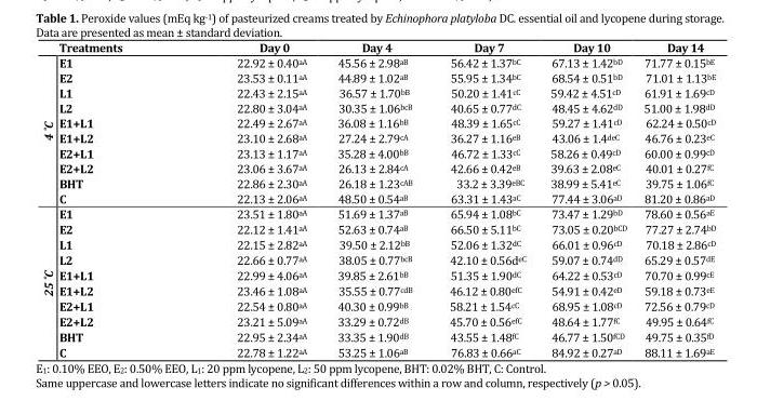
<table><thead><tr><td></td><td>Treatments</td><td>Day 0</td><td>Day 4</td><td>Day 7</td><td>Day 10</td><td>Day 14</td></tr></thead><tbody><tr><td rowspan="10">4 ˚C</td><td>E1</td><td>22.92 ± 0.40<sup>aA</sup></td><td>45.56 ± 2.98<sup>aB</sup></td><td>56.42 ± 1.37<sup>bC</sup></td><td>67.13 ± 1.42<sup>bD</sup></td><td>71.77 ± 0.15<sup>bE</sup></td></tr><tr><td>E2</td><td>23.53 ± 0.11<sup>aA</sup></td><td>44.89 ± 1.02<sup>aB</sup></td><td>55.95 ± 1.34<sup>bC</sup></td><td>68.54 ± 0.51<sup>bD</sup></td><td>71.01 ± 1.13<sup>bE</sup></td></tr><tr><td>L1</td><td>22.43 ± 2.15<sup>aA</sup></td><td>36.57 ± 1.70<sup>bB</sup></td><td>50.20 ± 1.41<sup>cC</sup></td><td>59.42 ± 4.51<sup>cD</sup></td><td>61.91 ± 1.69<sup>cD</sup></td></tr><tr><td>L2</td><td>22.80 ± 3.04<sup>aA</sup></td><td>30.35 ± 1.06<sup>bcB</sup></td><td>40.65 ± 0.77<sup>dC</sup></td><td>48.45 ± 4.62<sup>dD</sup></td><td>51.00 ± 1.98<sup>dD</sup></td></tr><tr><td>E1+L1</td><td>22.49 ± 2.67<sup>aA</sup></td><td>36.08 ± 1.16<sup>bB</sup></td><td>48.39 ± 1.65<sup>cC</sup></td><td>59.27 ± 1.41<sup>cD</sup></td><td>62.24 ± 0.50<sup>cD</sup></td></tr><tr><td>E1+L2</td><td>23.10 ± 2.68<sup>aA</sup></td><td>27.24 ± 2.79<sup>cA</sup></td><td>36.27 ± 1.16<sup>eB</sup></td><td>43.06 ± 1.4<sup>deC</sup></td><td>46.76 ± 0.23<sup>eC</sup></td></tr><tr><td>E2+L1</td><td>23.13 ± 1.17<sup>aA</sup></td><td>35.28 ± 4.00<sup>bB</sup></td><td>46.72 ± 1.33<sup>cC</sup></td><td>58.26 ± 0.49<sup>cD</sup></td><td>60.00 ± 0.99<sup>cD</sup></td></tr><tr><td>E2+L2</td><td>23.06 ± 3.67<sup>aA</sup></td><td>26.13 ± 2.84<sup>cA</sup></td><td>42.66 ± 0.42<sup>eB</sup></td><td>39.63 ± 2.08<sup>eC</sup></td><td>40.01 ± 0.27<sup>fC</sup></td></tr><tr><td>BHT</td><td>22.86 ± 2.30<sup>aA</sup></td><td>26.18 ± 1.23<sup>cAB</sup></td><td>33.2 ± 3.39<sup>eBC</sup></td><td>38.99 ± 5.41<sup>eC</sup></td><td>39.75 ± 1.06<sup>fC</sup></td></tr><tr><td>C</td><td>22.13 ± 2.06<sup>aA</sup></td><td>48.50 ± 0.54<sup>aB</sup></td><td>63.31 ± 1.43<sup>aC</sup></td><td>77.44 ± 3.06<sup>aD</sup></td><td>81.20 ± 0.86<sup>aD</sup></td></tr><tr><td rowspan="10">25 ˚C</td><td>E1</td><td>23.51 ± 1.80<sup>aA</sup></td><td>51.69 ± 1.37<sup>aB</sup></td><td>65.94 ± 1.08<sup>bC</sup></td><td>73.47 ± 1.29<sup>bD</sup></td><td>78.60 ± 0.56<sup>aE</sup></td></tr><tr><td>E2</td><td>22.12 ± 1.41<sup>aA</sup></td><td>52.63 ± 0.74<sup>aB</sup></td><td>66.50 ± 5.11<sup>bC</sup></td><td>73.05 ± 0.20<sup>bCD</sup></td><td>77.27 ± 2.74<sup>bD</sup></td></tr><tr><td>L1</td><td>22.15 ± 2.82<sup>aA</sup></td><td>39.50 ± 2.12<sup>bB</sup></td><td>52.06 ± 1.32<sup>dC</sup></td><td>66.01 ± 0.96<sup>cD</sup></td><td>70.18 ± 2.86<sup>cD</sup></td></tr><tr><td>L2</td><td>22.66 ± 0.77<sup>aA</sup></td><td>38.05 ± 0.77<sup>bcB</sup></td><td>42.10 ± 0.56d<sup>eC</sup></td><td>59.07 ± 0.74<sup>dD</sup></td><td>65.29 ± 0.57<sup>dE</sup></td></tr><tr><td>E1+L1</td><td>22.99 ± 4.06<sup>aA</sup></td><td>39.85 ± 2.61<sup>bB</sup></td><td>51.35 ± 1.90<sup>dC</sup></td><td>64.22 ± 0.53<sup>cD</sup></td><td>70.70 ± 0.99<sup>cE</sup></td></tr><tr><td>E1+L2</td><td>23.46 ± 1.08<sup>aA</sup></td><td>35.55 ± 0.77<sup>cdB</sup></td><td>46.12 ± 0.80<sup>efC</sup></td><td>54.91 ± 0.42<sup>eD</sup></td><td>59.18 ± 0.73<sup>eE</sup></td></tr><tr><td>E2+L1</td><td>22.54 ± 0.80<sup>aA</sup></td><td>40.30 ± 0.99<sup>bB</sup></td><td>58.21 ± 1.54<sup>cC</sup></td><td>68.95 ± 1.08<sup>cD</sup></td><td>72.56 ± 0.79<sup>cD</sup></td></tr><tr><td>E2+L2</td><td>23.21 ± 5.09<sup>aA</sup></td><td>33.29 ± 0.72<sup>dB</sup></td><td>45.70 ± 0.56<sup>efC</sup></td><td>48.64 ± 1.77<sup>fC</sup></td><td>49.95 ± 0.64<sup>fC</sup></td></tr><tr><td>BHT</td><td>22.95 ± 2.34<sup>aA</sup></td><td>33.35 ± 1.90<sup>dB</sup></td><td>43.55 ± 1.48<sup>fC</sup></td><td>46.77 ± 1.50<sup>fCD</sup></td><td>49.75 ± 0.35<sup>fD</sup></td></tr><tr><td>C</td><td>22.78 ± 1.22<sup>aA</sup></td><td>53.25 ± 1.06<sup>aB</sup></td><td>76.83 ± 0.66<sup>aC</sup></td><td>84.92 ± 0.27<sup>aD</sup></td><td>88.11 ± 1.69<sup>aE</sup></td></tr></tbody></table>